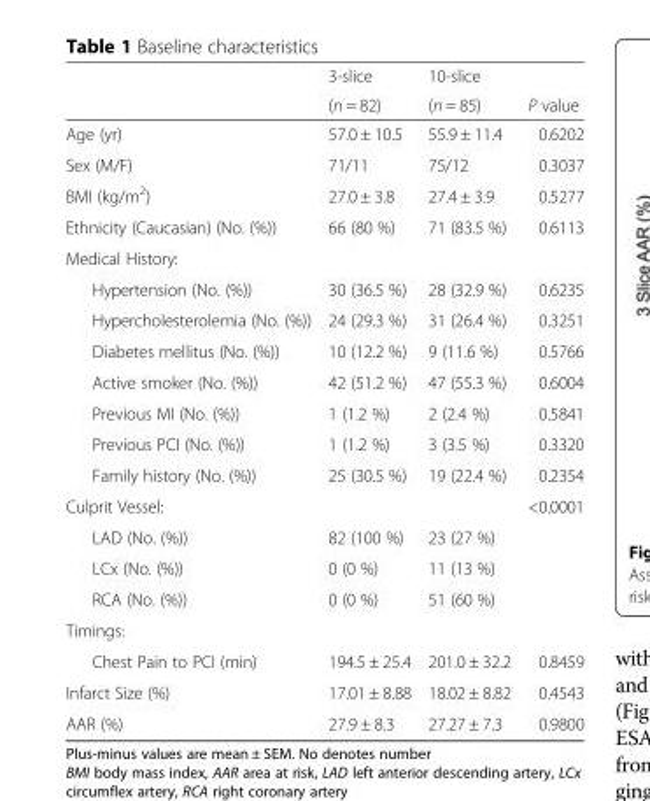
<table><thead><tr><td rowspan="2"></td><td rowspan="2">3-slice (n = 82)</td><td rowspan="2">10-slice (n = 85)</td><td rowspan="2">P value</td></tr><tr></tr></thead><tbody><tr><td>Age (yr)</td><td>57.0 ± 10.5</td><td>55.9 ± 11.4</td><td>0.6202</td></tr><tr><td>Sex (M/F)</td><td>71/11</td><td>75/12</td><td>0.3037</td></tr><tr><td>BMI (kg/m<sup>2</sup>)</td><td>27.0 ± 3.8</td><td>27.4 ± 3.9</td><td>0.5277</td></tr><tr><td>Ethnicity (Caucasian) (No. (%))</td><td>66 (80 %)</td><td>71 (83.5 %)</td><td>0.6113</td></tr><tr><td colspan="4">Medical History:</td></tr><tr><td>Hypertension (No. (%))</td><td>30 (36.5 %)</td><td>28 (32.9 %)</td><td>0.6235</td></tr><tr><td>Hypercholesterolemia (No. (%))</td><td>24 (29.3 %)</td><td>31 (26.4 %)</td><td>0.3251</td></tr><tr><td>Diabetes mellitus (No. (%))</td><td>10 (12.2 %)</td><td>9 (11.6 %)</td><td>0.5766</td></tr><tr><td>Active smoker (No. (%))</td><td>42 (51.2 %)</td><td>47 (55.3 %)</td><td>0.6004</td></tr><tr><td>Previous MI (No. (%))</td><td>1 (1.2 %)</td><td>2 (2.4 %)</td><td>0.5841</td></tr><tr><td>Previous PCI (No. (%))</td><td>1 (1.2 %)</td><td>3 (3.5 %)</td><td>0.3320</td></tr><tr><td>Family history (No. (%))</td><td>25 (30.5 %)</td><td>19 (22.4 %)</td><td>0.2354</td></tr><tr><td>Culprit Vessel:</td><td></td><td></td><td>&lt;0.0001</td></tr><tr><td>LAD (No. (%))</td><td>82 (100 %)</td><td>23 (27 %)</td><td></td></tr><tr><td>LCx (No. (%))</td><td>0 (0 %)</td><td>11 (13 %)</td><td></td></tr><tr><td>RCA (No. (%))</td><td>0 (0 %)</td><td>51 (60 %)</td><td></td></tr><tr><td colspan="4">Timings:</td></tr><tr><td>Chest Pain to PCI (min)</td><td>194.5 ± 25.4</td><td>201.0 ± 32.2</td><td>0.8459</td></tr><tr><td>Infarct Size (%)</td><td>17.01 ± 8.88</td><td>18.02 ± 8.82</td><td>0.4543</td></tr><tr><td>AAR (%)</td><td>27.9 ± 8.3</td><td>27.27 ± 7.3</td><td>0.9800</td></tr></tbody></table>